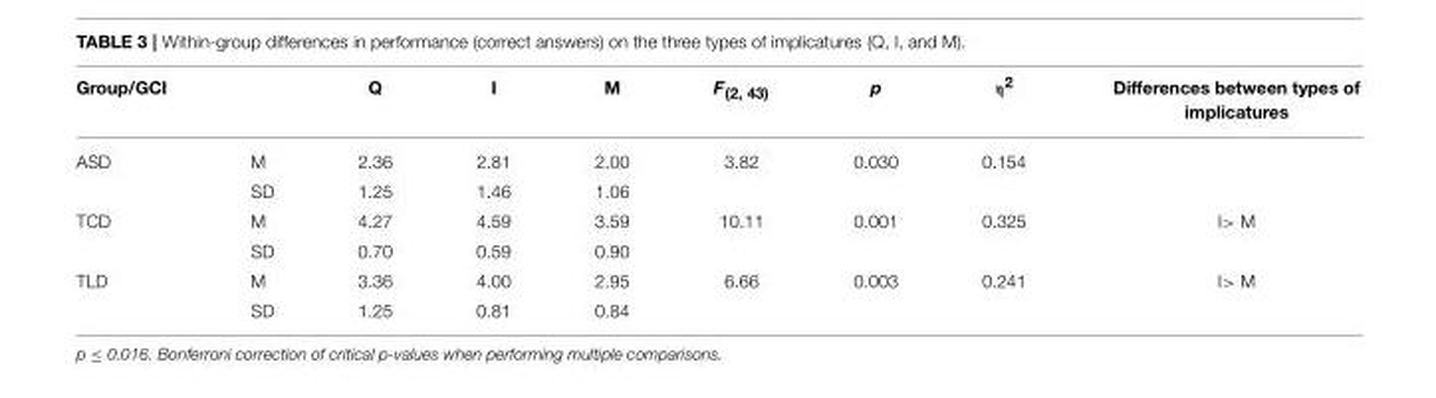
<table><thead><tr><td>Group/GCI</td><td></td><td>Q</td><td>I</td><td>M</td><td>F<sub>(2, 43)</sub></td><td>p</td><td>η<sup>2</sup></td><td>Differences between types of implicatures</td></tr></thead><tbody><tr><td rowspan="2">ASD</td><td>M</td><td>2.36</td><td>2.81</td><td>2.00</td><td>3.82</td><td>0.030</td><td>0.154</td><td></td></tr><tr><td>SD</td><td>1.25</td><td>1.46</td><td>1.06</td><td></td><td></td><td></td><td></td></tr><tr><td rowspan="2">TCD</td><td>M</td><td>4.27</td><td>4.59</td><td>3.59</td><td>10.11</td><td>0.001</td><td>0.325</td><td>I&gt; M</td></tr><tr><td>SD</td><td>0.70</td><td>0.59</td><td>0.90</td><td></td><td></td><td></td><td></td></tr><tr><td rowspan="2">TLD</td><td>M</td><td>3.36</td><td>4.00</td><td>2.95</td><td>6.66</td><td>0.003</td><td>0.241</td><td>I&gt; M</td></tr><tr><td>SD</td><td>1.25</td><td>0.81</td><td>0.84</td><td></td><td></td><td></td><td></td></tr></tbody></table>